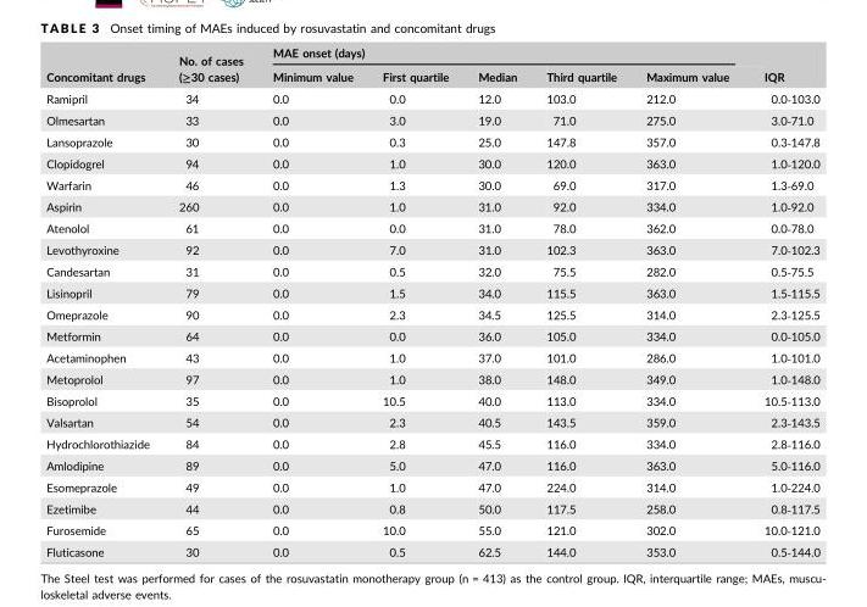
<table><thead><tr><td rowspan="2">Concomitant drugs</td><td rowspan="2">No. of cases (≥30 cases)</td><td colspan="5">MAE onset (days)</td><td rowspan="2">IQR</td></tr><tr><td>Minimum value</td><td>First quartile</td><td>Median</td><td>Third quartile</td><td>Maximum value</td></tr></thead><tbody><tr><td>Ramipril</td><td>34</td><td>0.0</td><td>0.0</td><td>12.0</td><td>103.0</td><td>212.0</td><td>0.0‐103.0</td></tr><tr><td>Olmesartan</td><td>33</td><td>0.0</td><td>3.0</td><td>19.0</td><td>71.0</td><td>275.0</td><td>3.0‐71.0</td></tr><tr><td>Lansoprazole</td><td>30</td><td>0.0</td><td>0.3</td><td>25.0</td><td>147.8</td><td>357.0</td><td>0.3‐147.8</td></tr><tr><td>Clopidogrel</td><td>94</td><td>0.0</td><td>1.0</td><td>30.0</td><td>120.0</td><td>363.0</td><td>1.0‐120.0</td></tr><tr><td>Warfarin</td><td>46</td><td>0.0</td><td>1.3</td><td>30.0</td><td>69.0</td><td>317.0</td><td>1.3‐69.0</td></tr><tr><td>Aspirin</td><td>260</td><td>0.0</td><td>1.0</td><td>31.0</td><td>92.0</td><td>334.0</td><td>1.0‐92.0</td></tr><tr><td>Atenolol</td><td>61</td><td>0.0</td><td>0.0</td><td>31.0</td><td>78.0</td><td>362.0</td><td>0.0‐78.0</td></tr><tr><td>Levothyroxine</td><td>92</td><td>0.0</td><td>7.0</td><td>31.0</td><td>102.3</td><td>363.0</td><td>7.0‐102.3</td></tr><tr><td>Candesartan</td><td>31</td><td>0.0</td><td>0.5</td><td>32.0</td><td>75.5</td><td>282.0</td><td>0.5‐75.5</td></tr><tr><td>Lisinopril</td><td>79</td><td>0.0</td><td>1.5</td><td>34.0</td><td>115.5</td><td>363.0</td><td>1.5‐115.5</td></tr><tr><td>Omeprazole</td><td>90</td><td>0.0</td><td>2.3</td><td>34.5</td><td>125.5</td><td>314.0</td><td>2.3‐125.5</td></tr><tr><td>Metformin</td><td>64</td><td>0.0</td><td>0.0</td><td>36.0</td><td>105.0</td><td>334.0</td><td>0.0‐105.0</td></tr><tr><td>Acetaminophen</td><td>43</td><td>0.0</td><td>1.0</td><td>37.0</td><td>101.0</td><td>286.0</td><td>1.0‐101.0</td></tr><tr><td>Metoprolol</td><td>97</td><td>0.0</td><td>1.0</td><td>38.0</td><td>148.0</td><td>349.0</td><td>1.0‐148.0</td></tr><tr><td>Bisoprolol</td><td>35</td><td>0.0</td><td>10.5</td><td>40.0</td><td>113.0</td><td>334.0</td><td>10.5‐113.0</td></tr><tr><td>Valsartan</td><td>54</td><td>0.0</td><td>2.3</td><td>40.5</td><td>143.5</td><td>359.0</td><td>2.3‐143.5</td></tr><tr><td>Hydrochlorothiazide</td><td>84</td><td>0.0</td><td>2.8</td><td>45.5</td><td>116.0</td><td>334.0</td><td>2.8‐116.0</td></tr><tr><td>Amlodipine</td><td>89</td><td>0.0</td><td>5.0</td><td>47.0</td><td>116.0</td><td>363.0</td><td>5.0‐116.0</td></tr><tr><td>Esomeprazole</td><td>49</td><td>0.0</td><td>1.0</td><td>47.0</td><td>224.0</td><td>314.0</td><td>1.0‐224.0</td></tr><tr><td>Ezetimibe</td><td>44</td><td>0.0</td><td>0.8</td><td>50.0</td><td>117.5</td><td>258.0</td><td>0.8‐117.5</td></tr><tr><td>Furosemide</td><td>65</td><td>0.0</td><td>10.0</td><td>55.0</td><td>121.0</td><td>302.0</td><td>10.0‐121.0</td></tr><tr><td>Fluticasone</td><td>30</td><td>0.0</td><td>0.5</td><td>62.5</td><td>144.0</td><td>353.0</td><td>0.5‐144.0</td></tr></tbody></table>